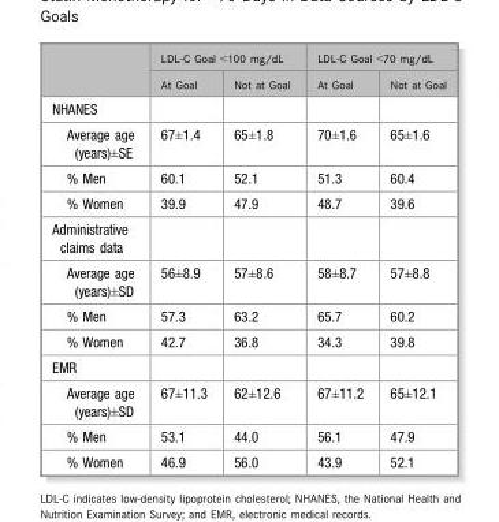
<table><thead><tr><td rowspan="2"></td><td colspan="2">LDL-C Goal &lt;100 mg/dL</td><td colspan="2">LDL-C Goal &lt;70 mg/dL</td></tr><tr><td>At Goal</td><td>Not at Goal</td><td>At Goal</td><td>Not at Goal</td></tr></thead><tbody><tr><td colspan="5">NHANES</td></tr><tr><td>Average age (years)±SE</td><td>67±1.4</td><td>65±1.8</td><td>70±1.6</td><td>65±1.6</td></tr><tr><td>% Men</td><td>60.1</td><td>52.1</td><td>51.3</td><td>60.4</td></tr><tr><td>% Women</td><td>39.9</td><td>47.9</td><td>48.7</td><td>39.6</td></tr><tr><td colspan="5">Administrative claims data</td></tr><tr><td>Average age (years)±SD</td><td>56±8.9</td><td>57±8.6</td><td>58±8.7</td><td>57±8.8</td></tr><tr><td>% Men</td><td>57.3</td><td>63.2</td><td>65.7</td><td>60.2</td></tr><tr><td>% Women</td><td>42.7</td><td>36.8</td><td>34.3</td><td>39.8</td></tr><tr><td colspan="5">EMR</td></tr><tr><td>Average age (years)±SD</td><td>67±11.3</td><td>62±12.6</td><td>67±11.2</td><td>65±12.1</td></tr><tr><td>% Men</td><td>53.1</td><td>44.0</td><td>56.1</td><td>47.9</td></tr><tr><td>% Women</td><td>46.9</td><td>56.0</td><td>43.9</td><td>52.1</td></tr></tbody></table>